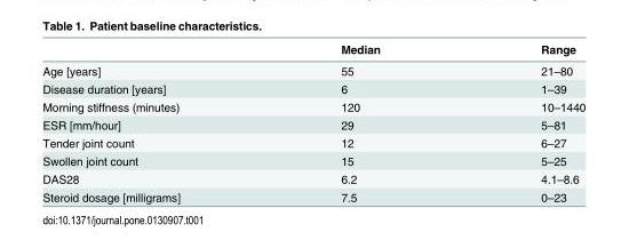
<table><thead><tr><td></td><td>Median</td><td>Range</td></tr></thead><tbody><tr><td>Age [years]</td><td>55</td><td>21–80</td></tr><tr><td>Disease duration [years]</td><td>6</td><td>1–39</td></tr><tr><td>Morning stiffness (minutes)</td><td>120</td><td>10–1440</td></tr><tr><td>ESR [mm/hour]</td><td>29</td><td>5–81</td></tr><tr><td>Tender joint count</td><td>12</td><td>6–27</td></tr><tr><td>Swollen joint count</td><td>15</td><td>5–25</td></tr><tr><td>DAS28</td><td>6.2</td><td>4.1–8.6</td></tr><tr><td>Steroid dosage [milligrams]</td><td>7.5</td><td>0–23</td></tr></tbody></table>